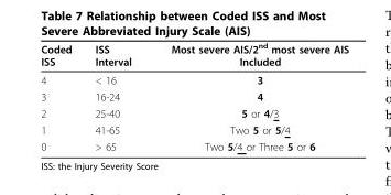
<table><thead><tr><td>Coded ISS</td><td>ISS Interval</td><td>Most severe AIS/2<sup>nd</sup> most severe AIS Included</td></tr></thead><tbody><tr><td>4</td><td>&lt; 16</td><td>3</td></tr><tr><td>3</td><td>16-24</td><td>4</td></tr><tr><td>2</td><td>25-40</td><td>5 or 4/3</td></tr><tr><td>1</td><td>41-65</td><td>Two 5 or 5/4</td></tr><tr><td>0</td><td>&gt; 65</td><td>Two 5/4 or Three 5 or 6</td></tr></tbody></table>